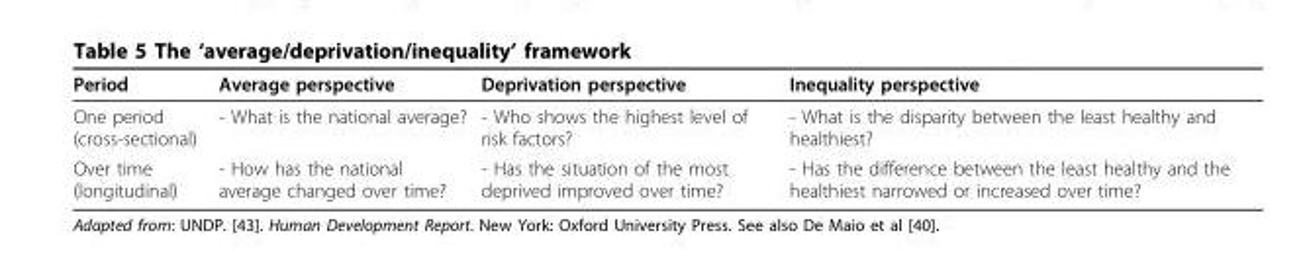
<table><thead><tr><td>Period</td><td>Average perspective</td><td>Deprivation perspective</td><td>Inequality perspective</td></tr></thead><tbody><tr><td>One period (cross-sectional)</td><td>- What is the national average?</td><td>- Who shows the highest level of risk factors?</td><td>- What is the disparity between the least healthy and healthiest?</td></tr><tr><td>Over time (longitudinal)</td><td>- How has the national average changed over time?</td><td>- Has the situation of the most deprived improved over time?</td><td>- Has the difference between the least healthy and the healthiest narrowed or increased over time?</td></tr></tbody></table>